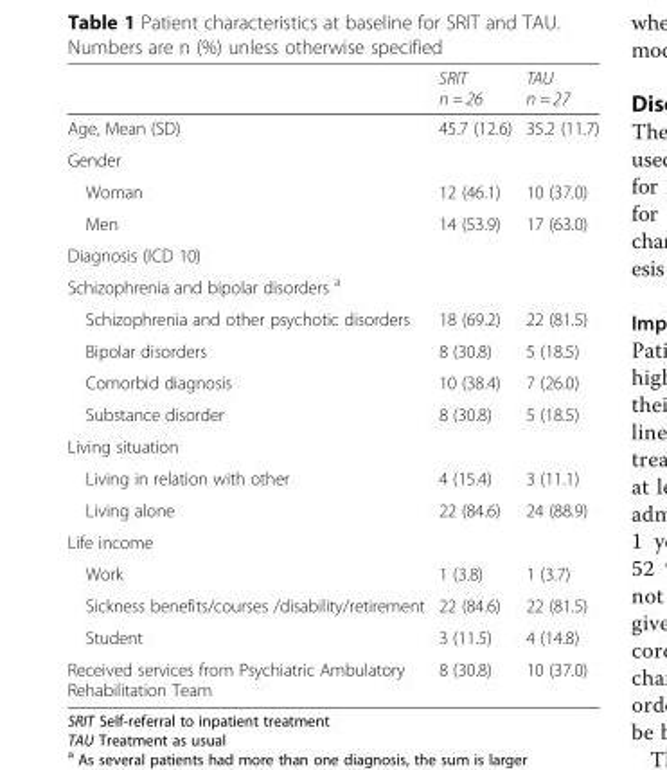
<table><thead><tr><td></td><td>SRIT n = 26</td><td>TAU n = 27</td></tr></thead><tbody><tr><td>Age, Mean (SD)</td><td>45.7 (12.6)</td><td>35.2 (11.7)</td></tr><tr><td colspan="3">Gender</td></tr><tr><td>Woman</td><td>12 (46.1)</td><td>10 (37.0)</td></tr><tr><td>Men</td><td>14 (53.9)</td><td>17 (63.0)</td></tr><tr><td colspan="3">Diagnosis (ICD 10)</td></tr><tr><td colspan="3">Schizophrenia and bipolar disorders <sup>a</sup></td></tr><tr><td>Schizophrenia and other psychotic disorders</td><td>18 (69.2)</td><td>22 (81.5)</td></tr><tr><td>Bipolar disorders</td><td>8 (30.8)</td><td>5 (18.5)</td></tr><tr><td>Comorbid diagnosis</td><td>10 (38.4)</td><td>7 (26.0)</td></tr><tr><td>Substance disorder</td><td>8 (30.8)</td><td>5 (18.5)</td></tr><tr><td colspan="3">Living situation</td></tr><tr><td>Living in relation with other</td><td>4 (15.4)</td><td>3 (11.1)</td></tr><tr><td>Living alone</td><td>22 (84.6)</td><td>24 (88.9)</td></tr><tr><td colspan="3">Life income</td></tr><tr><td>Work</td><td>1 (3.8)</td><td>1 (3.7)</td></tr><tr><td>Sickness benefits/courses /disability/retirement</td><td>22 (84.6)</td><td>22 (81.5)</td></tr><tr><td>Student</td><td>3 (11.5)</td><td>4 (14.8)</td></tr><tr><td>Received services from Psychiatric Ambulatory Rehabilitation Team</td><td>8 (30.8)</td><td>10 (37.0)</td></tr></tbody></table>